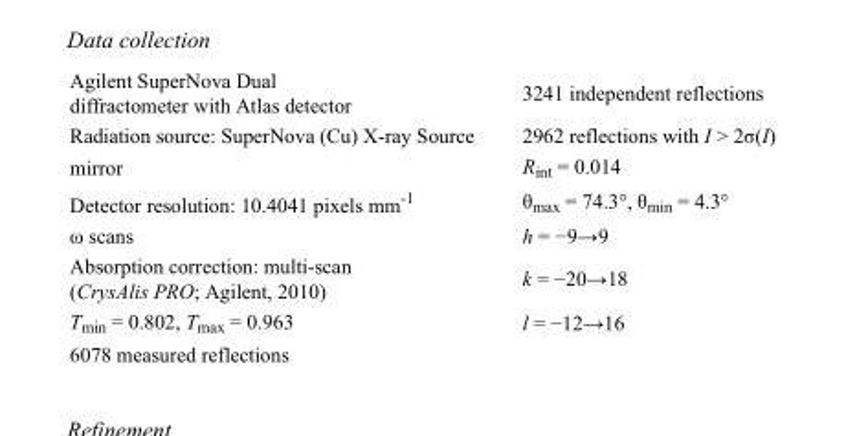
<table><tbody><tr><td>Agilent SuperNova Dual diffractometer with Atlas detector</td><td>3241 independent reflections</td></tr><tr><td>Radiation source: SuperNova (Cu) X-ray Source</td><td>2962 reflections with I &gt; 2σ(I)</td></tr><tr><td>mirror</td><td>R<sub>int</sub> = 0.014</td></tr><tr><td>Detector resolution: 10.4041 pixels mm<sup>-1</sup></td><td>θ<sub>max</sub> = 74.3°, θ<sub>min</sub> = 4.3°</td></tr><tr><td>ω scans</td><td>h = −9→9</td></tr><tr><td>Absorption correction: multi-scan (CrysAlis PRO; Agilent, 2010)</td><td>k = −20→18</td></tr><tr><td>T<sub>min</sub> = 0.802, T<sub>max</sub> = 0.963</td><td>l = −12→16</td></tr><tr><td>6078 measured reflections</td><td></td></tr></tbody></table>